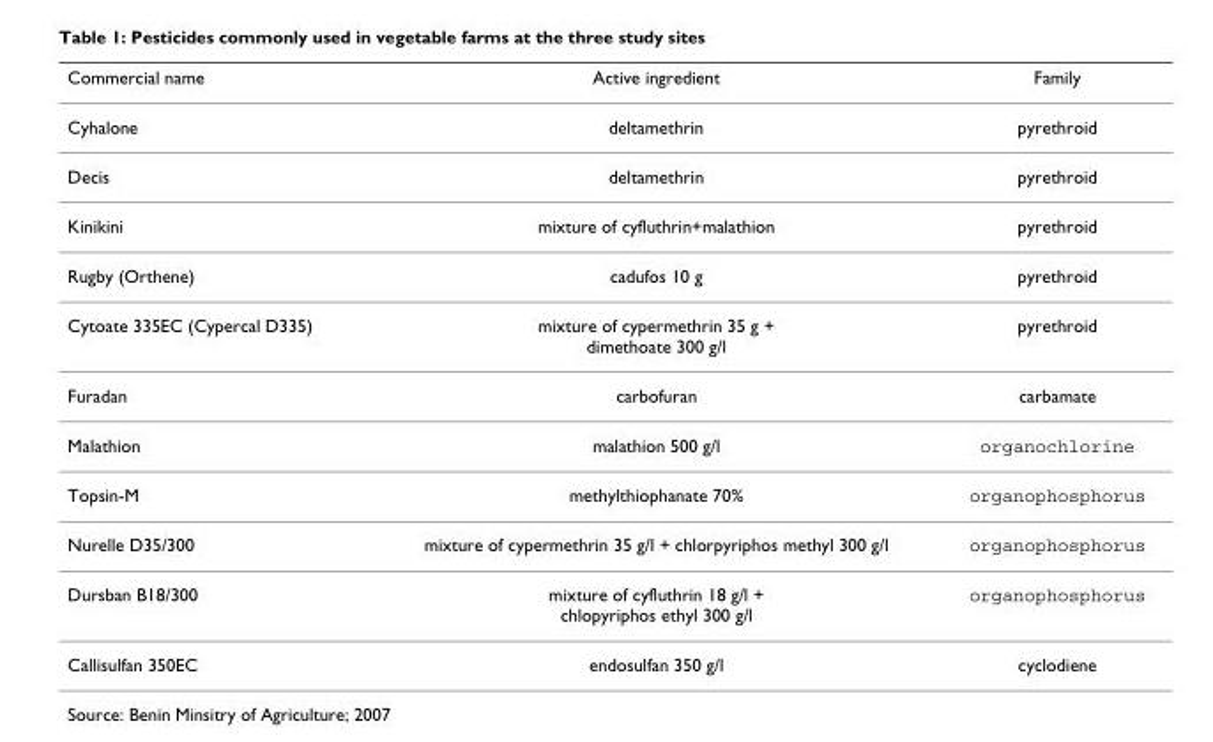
<table><thead><tr><td>Commercial name</td><td>Active ingredient</td><td>Family</td></tr></thead><tbody><tr><td>Cyhalone</td><td>deltamethrin</td><td>pyrethroid</td></tr><tr><td>Decis</td><td>deltamethrin</td><td>pyrethroid</td></tr><tr><td>Kinikini</td><td>mixture of cyfluthrin+malathion</td><td>pyrethroid</td></tr><tr><td>Rugby (Orthene)</td><td>cadufos 10 g</td><td>pyrethroid</td></tr><tr><td>Cytoate 335EC (Cypercal D335)</td><td>mixture of cypermethrin 35 g + dimethoate 300 g/l</td><td>pyrethroid</td></tr><tr><td>Furadan</td><td>carbofuran</td><td>carbamate</td></tr><tr><td>Malathion</td><td>malathion 500 g/l</td><td>organochlorine</td></tr><tr><td>Topsin-M</td><td>methylthiophanate 70%</td><td>organophosphorus</td></tr><tr><td>Nurelle D35/300</td><td>mixture of cypermethrin 35 g/l + chlorpyriphos methyl 300 g/l</td><td>organophosphorus</td></tr><tr><td>Dursban B18/300</td><td>mixture of cyfluthrin 18 g/l + chlopyriphos ethyl 300 g/l</td><td>organophosphorus</td></tr><tr><td>Callisulfan 350EC</td><td>endosulfan 350 g/l</td><td>cyclodiene</td></tr></tbody></table>